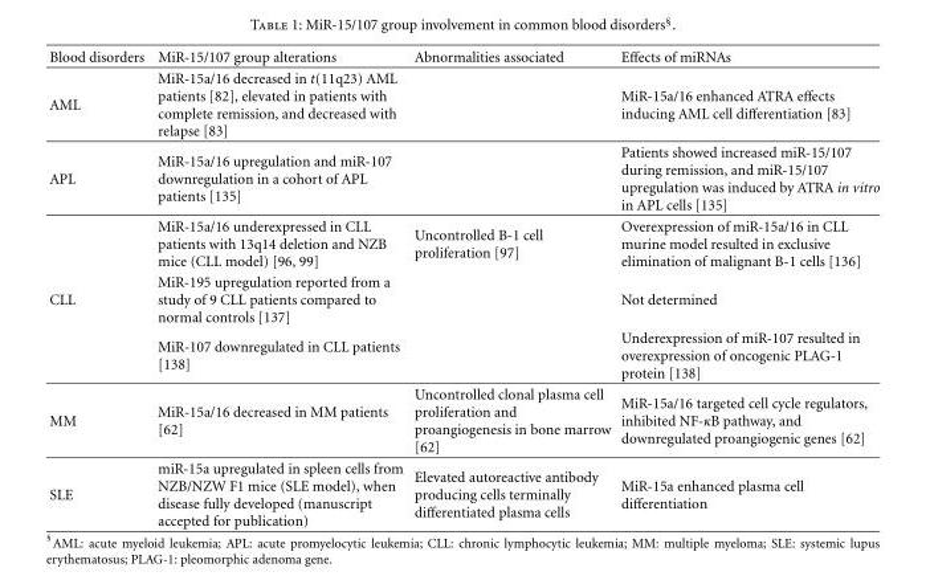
<table><thead><tr><td>Blood disorders</td><td>MiR-15/107 group alterations</td><td>Abnormalities associated</td><td>Effects of miRNAs</td></tr></thead><tbody><tr><td>AML</td><td>MiR-15a/16 decreased in t(11q23) AML patients [82], elevated in patients with complete remission, and decreased with relapse [83]</td><td></td><td>MiR-15a/16 enhanced ATRA effects inducing AML cell differentiation [83]</td></tr><tr><td rowspan="2">APL</td><td>MiR-15a/16 upregulation and miR-107 downregulation in a cohort of APL patients [135]</td><td></td><td>Patients showed increased miR-15/107 during remission, and miR-15/107 upregulation was induced by ATRA in vitro in APL cells [135]</td></tr><tr><td>MiR-15a/16 underexpressed in CLL patients with 13q14 deletion and NZB mice (CLL model) [96, 99]</td><td>Uncontrolled B-1 cell proliferation [97]</td><td>Overexpression of miR-15a/16 in CLL murine model resulted in exclusive elimination of malignant B-1 cells [136]</td></tr><tr><td rowspan="2">CLL</td><td>MiR-195 upregulation reported from a study of 9 CLL patients compared to normal controls [137]</td><td></td><td>Not determined</td></tr><tr><td>MiR-107 downregulated in CLL patients [138]</td><td></td><td>Underexpression of miR-107 resulted in overexpression of oncogenic PLAG-1 protein [138]</td></tr><tr><td>MM</td><td>MiR-15a/16 decreased in MM patients [62]</td><td>Uncontrolled clonal plasma cell proliferation and proangiogenesis in bone marrow [62]</td><td>MiR-15a/16 targeted cell cycle regulators, inhibited NF-κB pathway, and downregulated proangiogenic genes [62]</td></tr><tr><td>SLE</td><td>miR-15a upregulated in spleen cells from NZB/NZW F1 mice (SLE model), when disease fully developed (manuscript accepted for publication)</td><td>Elevated autoreactive antibody producing cells terminally differentiated plasma cells</td><td>MiR-15a enhanced plasma cell differentiation</td></tr></tbody></table>